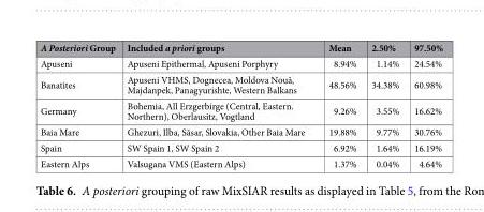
<table><thead><tr><td>A Posteriori Group</td><td>Included a priori groups</td><td>Mean</td><td>2.50%</td><td>97.50%</td></tr></thead><tbody><tr><td>Apuseni</td><td>Apuseni Epithermal, Apuseni Porphyry</td><td>8.94%</td><td>1.14%</td><td>24.54%</td></tr><tr><td>Banatites</td><td>Apuseni VHMS, Dognecea, Moldova Nouă, Majdanpek, Panagyurishte, Western Balkans</td><td>48.56%</td><td>34.38%</td><td>60.98%</td></tr><tr><td>Germany</td><td>Bohemia, All Erzgerbirge (Central, Eastern. Northern), Oberlausitz, Vogtland</td><td>9.26%</td><td>3.55%</td><td>16.62%</td></tr><tr><td>Baia Mare</td><td>Ghezuri, Ilba, Săsar, Slovakia, Other Baia Mare</td><td>19.88%</td><td>9.77%</td><td>30.76%</td></tr><tr><td>Spain</td><td>SW Spain 1, SW Spain 2</td><td>6.92%</td><td>1.64%</td><td>16.19%</td></tr><tr><td>Eastern Alps</td><td>Valsugana VMS (Eastern Alps)</td><td>1.37%</td><td>0.04%</td><td>4.64%</td></tr></tbody></table>